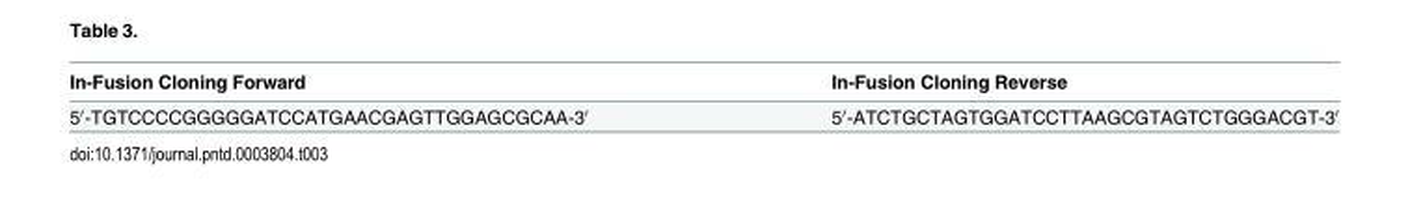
<table><thead><tr><td>In-Fusion Cloning Forward</td><td>In-Fusion Cloning Reverse</td></tr></thead><tbody><tr><td>5ʹ-TGTCCCCGGGGGATCCATGAACGAGTTGGAGCGCAA-3ʹ</td><td>5ʹ-ATCTGCTAGTGGATCCTTAAGCGTAGTCTGGGACGT-3ʹ</td></tr></tbody></table>